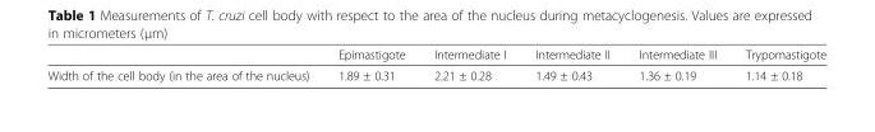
<table><thead><tr><td></td><td>Epimastigote</td><td>Intermediate I</td><td>Intermediate II</td><td>Intermediate III</td><td>Trypomastigote</td></tr></thead><tbody><tr><td>Width of the cell body (in the area of the nucleus)</td><td>1.89 ± 0.31</td><td>2.21 ± 0.28</td><td>1.49 ± 0.43</td><td>1.36 ± 0.19</td><td>1.14 ± 0.18</td></tr></tbody></table>